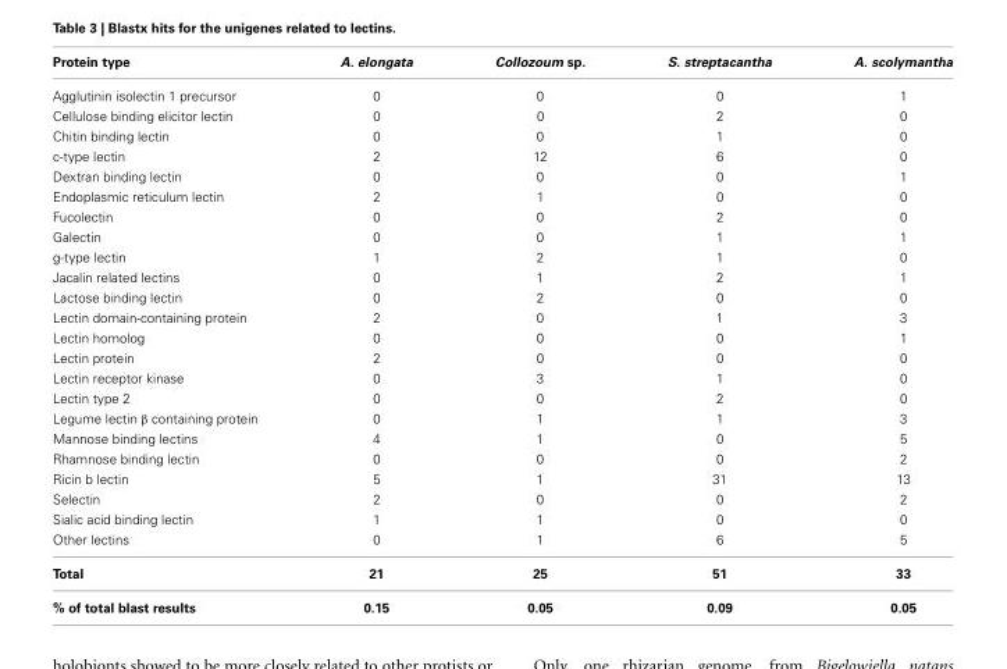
<table><thead><tr><td>Protein type</td><td>A. elongata</td><td>Collozoum sp.</td><td>S. streptacantha</td><td>A. scolymantha</td></tr></thead><tbody><tr><td>Agglutinin isolectin 1 precursor</td><td>0</td><td>0</td><td>0</td><td>1</td></tr><tr><td>Cellulose binding elicitor lectin</td><td>0</td><td>0</td><td>2</td><td>0</td></tr><tr><td>Chitin binding lectin</td><td>0</td><td>0</td><td>1</td><td>0</td></tr><tr><td>c-type lectin</td><td>2</td><td>12</td><td>6</td><td>0</td></tr><tr><td>Dextran binding lectin</td><td>0</td><td>0</td><td>0</td><td>1</td></tr><tr><td>Endoplasmic reticulum lectin</td><td>2</td><td>1</td><td>0</td><td>0</td></tr><tr><td>Fucolectin</td><td>0</td><td>0</td><td>2</td><td>0</td></tr><tr><td>Galectin</td><td>0</td><td>0</td><td>1</td><td>1</td></tr><tr><td>g-type lectin</td><td>1</td><td>2</td><td>1</td><td>0</td></tr><tr><td>Jacalin related lectins</td><td>0</td><td>1</td><td>2</td><td>1</td></tr><tr><td>Lactose binding lectin</td><td>0</td><td>2</td><td>0</td><td>0</td></tr><tr><td>Lectin domain-containing protein</td><td>2</td><td>0</td><td>1</td><td>3</td></tr><tr><td>Lectin homolog</td><td>0</td><td>0</td><td>0</td><td>1</td></tr><tr><td>Lectin protein</td><td>2</td><td>0</td><td>0</td><td>0</td></tr><tr><td>Lectin receptor kinase</td><td>0</td><td>3</td><td>1</td><td>0</td></tr><tr><td>Lectin type 2</td><td>0</td><td>0</td><td>2</td><td>0</td></tr><tr><td>Legume lectin β containing protein</td><td>0</td><td>1</td><td>1</td><td>3</td></tr><tr><td>Mannose binding lectins</td><td>4</td><td>1</td><td>0</td><td>5</td></tr><tr><td>Rhamnose binding lectin</td><td>0</td><td>0</td><td>0</td><td>2</td></tr><tr><td>Ricin b lectin</td><td>5</td><td>1</td><td>31</td><td>13</td></tr><tr><td>Selectin</td><td>2</td><td>0</td><td>0</td><td>2</td></tr><tr><td>Sialic acid binding lectin</td><td>1</td><td>1</td><td>0</td><td>0</td></tr><tr><td>Other lectins</td><td>0</td><td>1</td><td>6</td><td>5</td></tr><tr><td>Total</td><td>21</td><td>25</td><td>51</td><td>33</td></tr><tr><td>% of total blast results</td><td>0.15</td><td>0.05</td><td>0.09</td><td>0.05</td></tr></tbody></table>